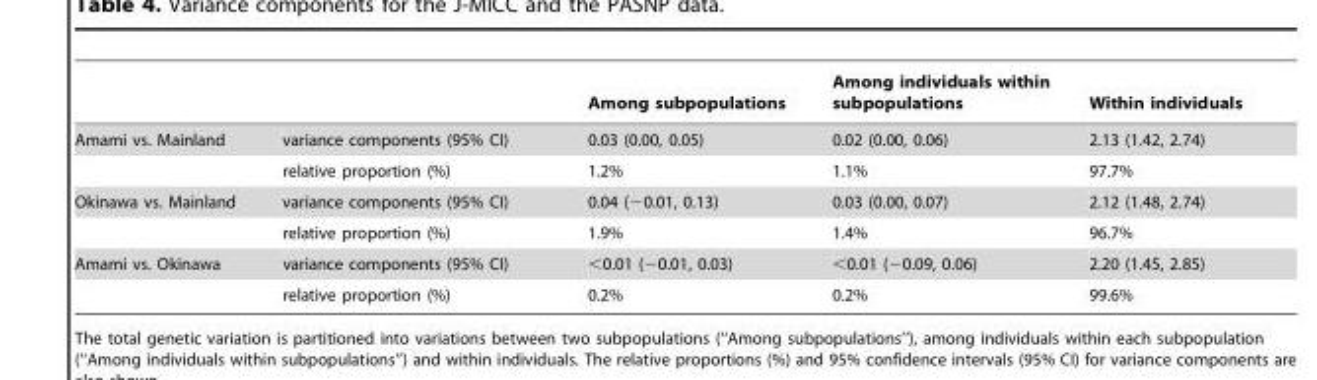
<table><thead><tr><td></td><td></td><td>Among subpopulations</td><td>Among individuals within subpopulations</td><td>Within individuals</td></tr></thead><tbody><tr><td rowspan="2">Amami vs. Mainland</td><td>variance components (95% CI)</td><td>0.03 (0.00, 0.05)</td><td>0.02 (0.00, 0.06)</td><td>2.13 (1.42, 2.74)</td></tr><tr><td>relative proportion (%)</td><td>1.2%</td><td>1.1%</td><td>97.7%</td></tr><tr><td rowspan="2">Okinawa vs. Mainland</td><td>variance components (95% CI)</td><td>0.04 (−0.01, 0.13)</td><td>0.03 (0.00, 0.07)</td><td>2.12 (1.48, 2.74)</td></tr><tr><td>relative proportion (%)</td><td>1.9%</td><td>1.4%</td><td>96.7%</td></tr><tr><td rowspan="2">Amami vs. Okinawa</td><td>variance components (95% CI)</td><td>&lt;0.01 (−0.01, 0.03)</td><td>&lt;0.01 (−0.09, 0.06)</td><td>2.20 (1.45, 2.85)</td></tr><tr><td>relative proportion (%)</td><td>0.2%</td><td>0.2%</td><td>99.6%</td></tr></tbody></table>